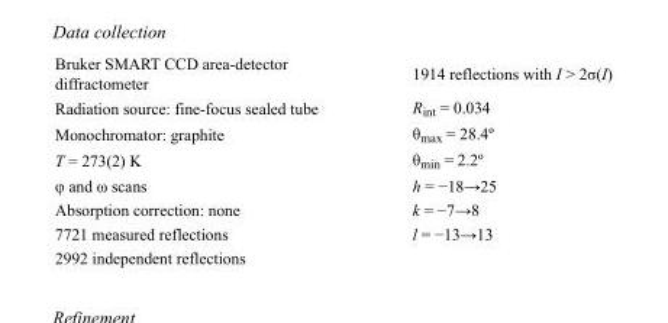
<table><tbody><tr><td>Bruker SMART CCD area-detector diffractometer</td><td>1914 reflections with I &gt; 2σ(I)</td></tr><tr><td>Radiation source: fine-focus sealed tube</td><td>R<sub>int</sub> = 0.034</td></tr><tr><td>Monochromator: graphite</td><td>θ<sub>max</sub> = 28.4º</td></tr><tr><td>T = 273(2) K</td><td>θ<sub>min</sub> = 2.2º</td></tr><tr><td>φ and ω scans</td><td>h = −18→25</td></tr><tr><td>Absorption correction: none</td><td>k = −7→8</td></tr><tr><td>7721 measured reflections</td><td>l = −13→13</td></tr><tr><td>2992 independent reflections</td><td></td></tr></tbody></table>